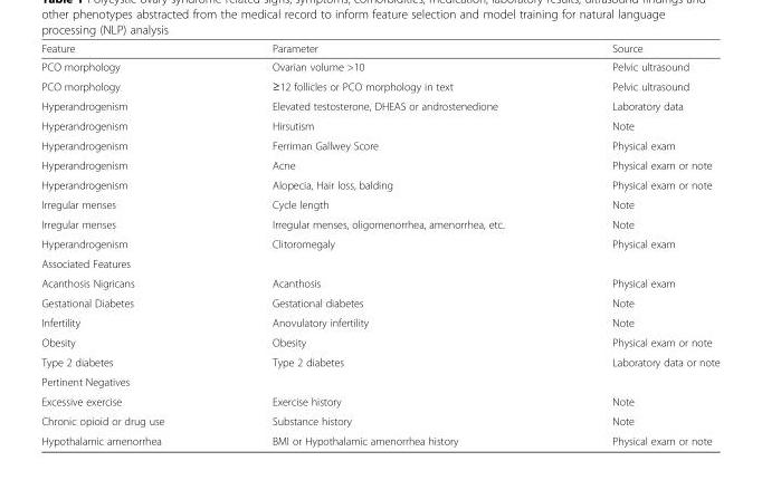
<table><thead><tr><td>Feature</td><td>Parameter</td><td>Source</td></tr></thead><tbody><tr><td>PCO morphology</td><td>Ovarian volume &gt;10</td><td>Pelvic ultrasound</td></tr><tr><td>PCO morphology</td><td>≥12 follicles or PCO morphology in text</td><td>Pelvic ultrasound</td></tr><tr><td>Hyperandrogenism</td><td>Elevated testosterone, DHEAS or androstenedione</td><td>Laboratory data</td></tr><tr><td>Hyperandrogenism</td><td>Hirsutism</td><td>Note</td></tr><tr><td>Hyperandrogenism</td><td>Ferriman Gallwey Score</td><td>Physical exam</td></tr><tr><td>Hyperandrogenism</td><td>Acne</td><td>Physical exam or note</td></tr><tr><td>Hyperandrogenism</td><td>Alopecia, Hair loss, balding</td><td>Physical exam or note</td></tr><tr><td>Irregular menses</td><td>Cycle length</td><td>Note</td></tr><tr><td>Irregular menses</td><td>Irregular menses, oligomenorrhea, amenorrhea, etc.</td><td>Note</td></tr><tr><td>Hyperandrogenism</td><td>Clitoromegaly</td><td>Physical exam</td></tr><tr><td colspan="3">Associated Features</td></tr><tr><td>Acanthosis Nigricans</td><td>Acanthosis</td><td>Physical exam</td></tr><tr><td>Gestational Diabetes</td><td>Gestational diabetes</td><td>Note</td></tr><tr><td>Infertility</td><td>Anovulatory infertility</td><td>Note</td></tr><tr><td>Obesity</td><td>Obesity</td><td>Physical exam or note</td></tr><tr><td>Type 2 diabetes</td><td>Type 2 diabetes</td><td>Laboratory data or note</td></tr><tr><td colspan="3">Pertinent Negatives</td></tr><tr><td>Excessive exercise</td><td>Exercise history</td><td>Note</td></tr><tr><td>Chronic opioid or drug use</td><td>Substance history</td><td>Note</td></tr><tr><td>Hypothalamic amenorrhea</td><td>BMI or Hypothalamic amenorrhea history</td><td>Physical exam or note</td></tr></tbody></table>